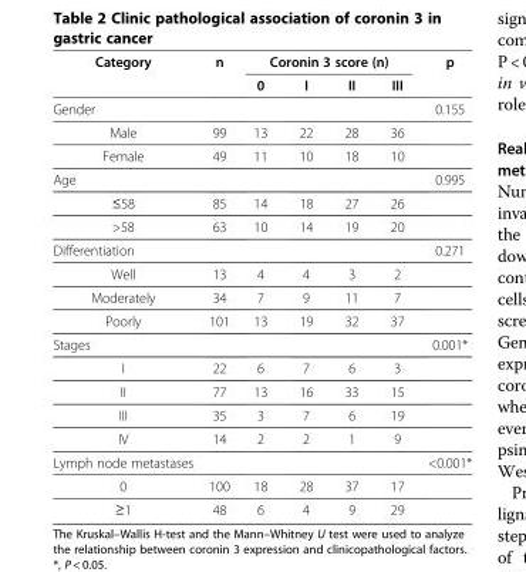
<table><thead><tr><td rowspan="2">Category</td><td rowspan="2">n</td><td colspan="4">Coronin 3 score (n)</td><td rowspan="2">p</td></tr><tr><td>0</td><td>I</td><td>II</td><td>III</td></tr></thead><tbody><tr><td>Gender</td><td></td><td></td><td></td><td></td><td></td><td>0.155</td></tr><tr><td>Male</td><td>99</td><td>13</td><td>22</td><td>28</td><td>36</td><td></td></tr><tr><td>Female</td><td>49</td><td>11</td><td>10</td><td>18</td><td>10</td><td></td></tr><tr><td>Age</td><td></td><td></td><td></td><td></td><td></td><td>0.995</td></tr><tr><td>≤58</td><td>85</td><td>14</td><td>18</td><td>27</td><td>26</td><td></td></tr><tr><td>&gt;58</td><td>63</td><td>10</td><td>14</td><td>19</td><td>20</td><td></td></tr><tr><td>Differentiation</td><td></td><td></td><td></td><td></td><td></td><td>0.271</td></tr><tr><td>Well</td><td>13</td><td>4</td><td>4</td><td>3</td><td>2</td><td></td></tr><tr><td>Moderately</td><td>34</td><td>7</td><td>9</td><td>11</td><td>7</td><td></td></tr><tr><td>Poorly</td><td>101</td><td>13</td><td>19</td><td>32</td><td>37</td><td></td></tr><tr><td>Stages</td><td></td><td></td><td></td><td></td><td></td><td>0.001*</td></tr><tr><td>I</td><td>22</td><td>6</td><td>7</td><td>6</td><td>3</td><td></td></tr><tr><td>II</td><td>77</td><td>13</td><td>16</td><td>33</td><td>15</td><td></td></tr><tr><td>III</td><td>35</td><td>3</td><td>7</td><td>6</td><td>19</td><td></td></tr><tr><td>IV</td><td>14</td><td>2</td><td>2</td><td>1</td><td>9</td><td></td></tr><tr><td>Lymph node metastases</td><td></td><td></td><td></td><td></td><td></td><td>&lt;0.001*</td></tr><tr><td>0</td><td>100</td><td>18</td><td>28</td><td>37</td><td>17</td><td></td></tr><tr><td>≥1</td><td>48</td><td>6</td><td>4</td><td>9</td><td>29</td><td></td></tr></tbody></table>